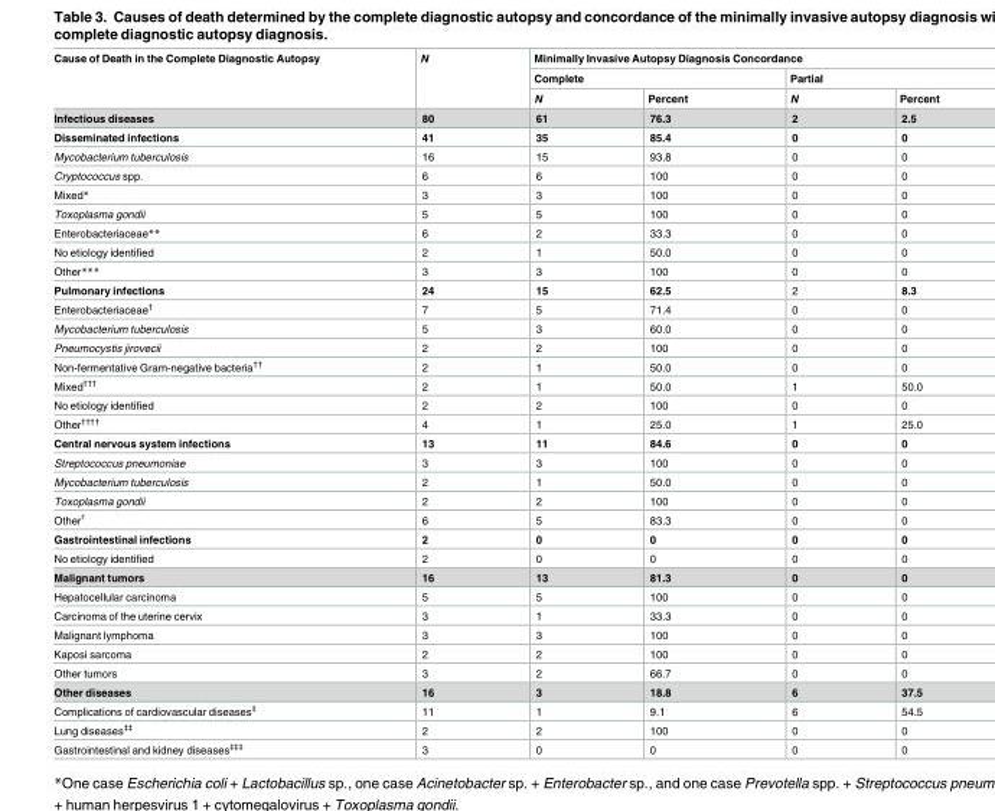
<table><thead><tr><td rowspan="3">Cause of Death in the Complete Diagnostic Autopsy</td><td rowspan="3">N</td><td colspan="4">Minimally Invasive Autopsy Diagnosis Concordance</td></tr><tr><td colspan="2">Complete</td><td colspan="2">Partial</td></tr><tr><td>N</td><td>Percent</td><td>N</td><td>Percent</td></tr></thead><tbody><tr><td>Infectious diseases</td><td>80</td><td>61</td><td>76.3</td><td>2</td><td>2.5</td></tr><tr><td>Disseminated infections</td><td>41</td><td>35</td><td>85.4</td><td>0</td><td>0</td></tr><tr><td>Mycobacterium tuberculosis</td><td>16</td><td>15</td><td>93.8</td><td>0</td><td>0</td></tr><tr><td>Cryptococcus spp.</td><td>6</td><td>6</td><td>100</td><td>0</td><td>0</td></tr><tr><td>Mixed*</td><td>3</td><td>3</td><td>100</td><td>0</td><td>0</td></tr><tr><td>Toxoplasma gondii</td><td>5</td><td>5</td><td>100</td><td>0</td><td>0</td></tr><tr><td>Enterobacteriaceae**</td><td>6</td><td>2</td><td>33.3</td><td>0</td><td>0</td></tr><tr><td>No etiology identified</td><td>2</td><td>1</td><td>50.0</td><td>0</td><td>0</td></tr><tr><td>Other***</td><td>3</td><td>3</td><td>100</td><td>0</td><td>0</td></tr><tr><td>Pulmonary infections</td><td>24</td><td>15</td><td>62.5</td><td>2</td><td>8.3</td></tr><tr><td>Enterobacteriaceae<sup>†</sup></td><td>7</td><td>5</td><td>71.4</td><td>0</td><td>0</td></tr><tr><td>Mycobacterium tuberculosis</td><td>5</td><td>3</td><td>60.0</td><td>0</td><td>0</td></tr><tr><td>Pneumocystis jirovecii</td><td>2</td><td>2</td><td>100</td><td>0</td><td>0</td></tr><tr><td>Non-fermentative Gram-negative bacteria<sup>††</sup></td><td>2</td><td>1</td><td>50.0</td><td>0</td><td>0</td></tr><tr><td>Mixed<sup>†††</sup></td><td>2</td><td>1</td><td>50.0</td><td>1</td><td>50.0</td></tr><tr><td>No etiology identified</td><td>2</td><td>2</td><td>100</td><td>0</td><td>0</td></tr><tr><td>Other<sup>††††</sup></td><td>4</td><td>1</td><td>25.0</td><td>1</td><td>25.0</td></tr><tr><td>Central nervous system infections</td><td>13</td><td>11</td><td>84.6</td><td>0</td><td>0</td></tr><tr><td>Streptococcus pneumoniae</td><td>3</td><td>3</td><td>100</td><td>0</td><td>0</td></tr><tr><td>Mycobacterium tuberculosis</td><td>2</td><td>1</td><td>50.0</td><td>0</td><td>0</td></tr><tr><td>Toxoplasma gondii</td><td>2</td><td>2</td><td>100</td><td>0</td><td>0</td></tr><tr><td>Other<sup>₹</sup></td><td>6</td><td>5</td><td>83.3</td><td>0</td><td>0</td></tr><tr><td>Gastrointestinal infections</td><td>2</td><td>0</td><td>0</td><td>0</td><td>0</td></tr><tr><td>No etiology identified</td><td>2</td><td>0</td><td>0</td><td>0</td><td>0</td></tr><tr><td>Malignant tumors</td><td>16</td><td>13</td><td>81.3</td><td>0</td><td>0</td></tr><tr><td>Hepatocellular carcinoma</td><td>5</td><td>5</td><td>100</td><td>0</td><td>0</td></tr><tr><td>Carcinoma of the uterine cervix</td><td>3</td><td>1</td><td>33.3</td><td>0</td><td>0</td></tr><tr><td>Malignant lymphoma</td><td>3</td><td>3</td><td>100</td><td>0</td><td>0</td></tr><tr><td>Kaposi sarcoma</td><td>2</td><td>2</td><td>100</td><td>0</td><td>0</td></tr><tr><td>Other tumors</td><td>3</td><td>2</td><td>66.7</td><td>0</td><td>0</td></tr><tr><td>Other diseases</td><td>16</td><td>3</td><td>18.8</td><td>6</td><td>37.5</td></tr><tr><td>Complications of cardiovascular diseases<sup>‡</sup></td><td>11</td><td>1</td><td>9.1</td><td>6</td><td>54.5</td></tr><tr><td>Lung diseases<sup>‡‡</sup></td><td>2</td><td>2</td><td>100</td><td>0</td><td>0</td></tr><tr><td>Gastrointestinal and kidney diseases<sup>‡‡‡</sup></td><td>3</td><td>0</td><td>0</td><td>0</td><td>0</td></tr></tbody></table>